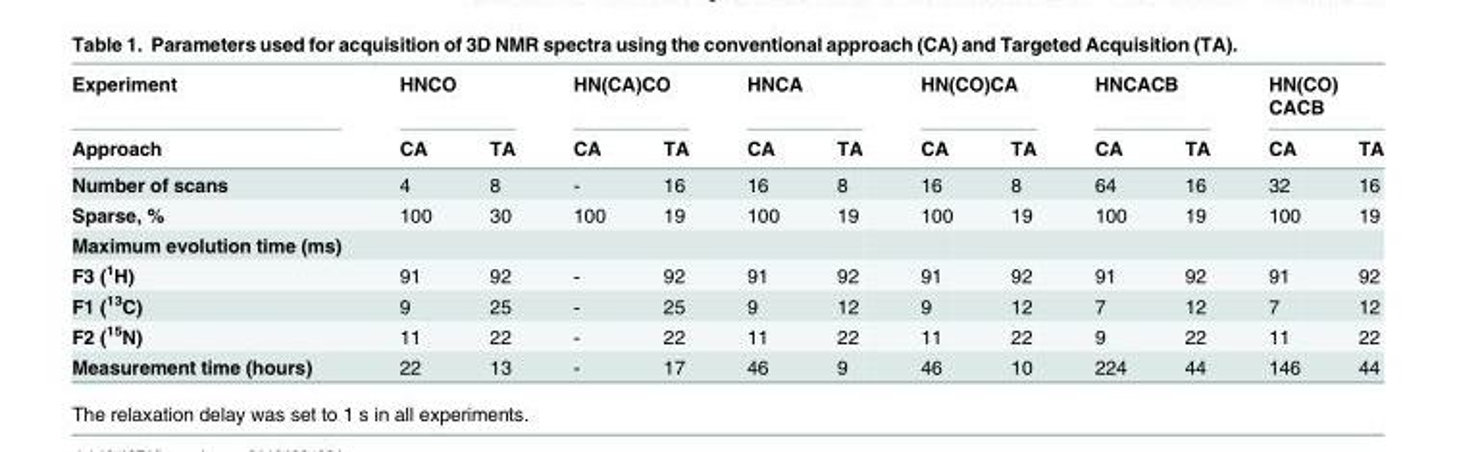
<table><thead><tr><td rowspan="2">Experiment Approach</td><td colspan="2">HNCO</td><td colspan="2">HN(CA)CO</td><td colspan="2">HNCA</td><td colspan="2">HN(CO)CA</td><td colspan="2">HNCACB</td><td colspan="2">HN(CO) CACB</td></tr><tr><td>CA</td><td>TA</td><td>CA</td><td>TA</td><td>CA</td><td>TA</td><td>CA</td><td>TA</td><td>CA</td><td>TA</td><td>CA</td><td>TA</td></tr></thead><tbody><tr><td>Number of scans</td><td>4</td><td>8</td><td>-</td><td>16</td><td>16</td><td>8</td><td>16</td><td>8</td><td>64</td><td>16</td><td>32</td><td>16</td></tr><tr><td>Sparse, %</td><td>100</td><td>30</td><td>100</td><td>19</td><td>100</td><td>19</td><td>100</td><td>19</td><td>100</td><td>19</td><td>100</td><td>19</td></tr><tr><td colspan="13">Maximum evolution time (ms)</td></tr><tr><td>F3 (<sup>1</sup>H)</td><td>91</td><td>92</td><td>-</td><td>92</td><td>91</td><td>92</td><td>91</td><td>92</td><td>91</td><td>92</td><td>91</td><td>92</td></tr><tr><td>F1 (<sup>13</sup>C)</td><td>9</td><td>25</td><td>-</td><td>25</td><td>9</td><td>12</td><td>9</td><td>12</td><td>7</td><td>12</td><td>7</td><td>12</td></tr><tr><td>F2 (<sup>15</sup>N)</td><td>11</td><td>22</td><td>-</td><td>22</td><td>11</td><td>22</td><td>11</td><td>22</td><td>9</td><td>22</td><td>11</td><td>22</td></tr><tr><td>Measurement time (hours)</td><td>22</td><td>13</td><td>-</td><td>17</td><td>46</td><td>9</td><td>46</td><td>10</td><td>224</td><td>44</td><td>146</td><td>44</td></tr></tbody></table>